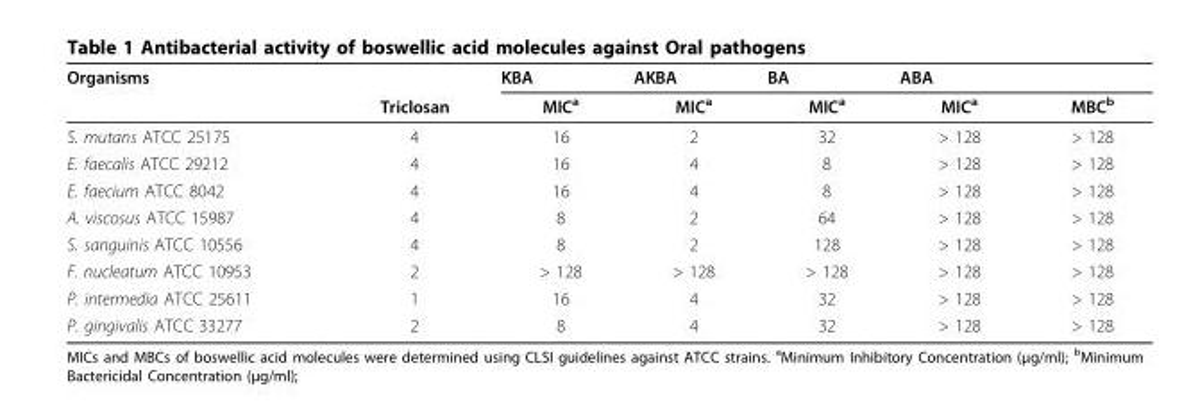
<table><thead><tr><td rowspan="2">Organisms</td><td rowspan="2">Triclosan</td><td rowspan="2">KBA MIC<sup>a</sup></td><td rowspan="2">AKBA MIC<sup>a</sup></td><td rowspan="2">BA MIC<sup>a</sup></td><td rowspan="2">ABA MIC<sup>a</sup></td><td rowspan="2">MBC<sup>b</sup></td></tr><tr></tr></thead><tbody><tr><td>S. mutans ATCC 25175</td><td>4</td><td>16</td><td>2</td><td>32</td><td>&gt; 128</td><td>&gt; 128</td></tr><tr><td>E. faecalis ATCC 29212</td><td>4</td><td>16</td><td>4</td><td>8</td><td>&gt; 128</td><td>&gt; 128</td></tr><tr><td>E. faecium ATCC 8042</td><td>4</td><td>16</td><td>4</td><td>8</td><td>&gt; 128</td><td>&gt; 128</td></tr><tr><td>A. viscosus ATCC 15987</td><td>4</td><td>8</td><td>2</td><td>64</td><td>&gt; 128</td><td>&gt; 128</td></tr><tr><td>S. sanguinis ATCC 10556</td><td>4</td><td>8</td><td>2</td><td>128</td><td>&gt; 128</td><td>&gt; 128</td></tr><tr><td>F. nucleatum ATCC 10953</td><td>2</td><td>&gt; 128</td><td>&gt; 128</td><td>&gt; 128</td><td>&gt; 128</td><td>&gt; 128</td></tr><tr><td>P. intermedia ATCC 25611</td><td>1</td><td>16</td><td>4</td><td>32</td><td>&gt; 128</td><td>&gt; 128</td></tr><tr><td>P. gingivalis ATCC 33277</td><td>2</td><td>8</td><td>4</td><td>32</td><td>&gt; 128</td><td>&gt; 128</td></tr></tbody></table>